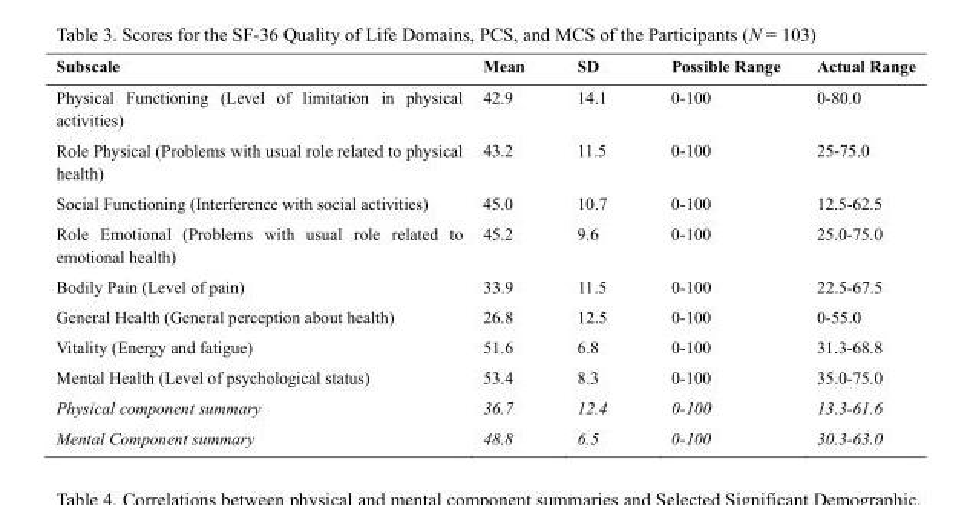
<table><thead><tr><td>Subscale</td><td>Mean</td><td>SD</td><td>Possible Range</td><td>Actual Range</td></tr></thead><tbody><tr><td>Physical Functioning (Level of limitation in physical activities)</td><td>42.9</td><td>14.1</td><td>0-100</td><td>0-80.0</td></tr><tr><td>Role Physical (Problems with usual role related to physical health)</td><td>43.2</td><td>11.5</td><td>0-100</td><td>25-75.0</td></tr><tr><td>Social Functioning (Interference with social activities)</td><td>45.0</td><td>10.7</td><td>0-100</td><td>12.5-62.5</td></tr><tr><td>Role Emotional (Problems with usual role related to emotional health)</td><td>45.2</td><td>9.6</td><td>0-100</td><td>25.0-75.0</td></tr><tr><td>Bodily Pain (Level of pain)</td><td>33.9</td><td>11.5</td><td>0-100</td><td>22.5-67.5</td></tr><tr><td>General Health (General perception about health)</td><td>26.8</td><td>12.5</td><td>0-100</td><td>0-55.0</td></tr><tr><td>Vitality (Energy and fatigue)</td><td>51.6</td><td>6.8</td><td>0-100</td><td>31.3-68.8</td></tr><tr><td>Mental Health (Level of psychological status)</td><td>53.4</td><td>8.3</td><td>0-100</td><td>35.0-75.0</td></tr><tr><td>Physical component summary</td><td>36.7</td><td>12.4</td><td>0-100</td><td>13.3-61.6</td></tr><tr><td>Mental Component summary</td><td>48.8</td><td>6.5</td><td>0-100</td><td>30.3-63.0</td></tr></tbody></table>